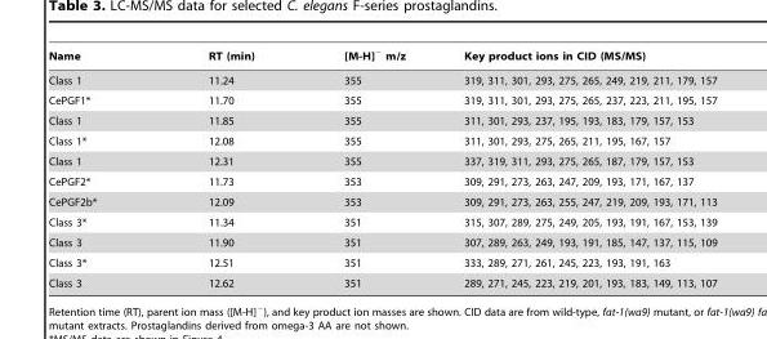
<table><thead><tr><td>Name</td><td>RT (min)</td><td>[M-H]<sup>−</sup> m/z</td><td>Key product ions in CID (MS/MS)</td></tr></thead><tbody><tr><td>Class 1</td><td>11.24</td><td>355</td><td>319, 311, 301, 293, 275, 265, 249, 219, 211, 179, 157</td></tr><tr><td>CePGF1*</td><td>11.70</td><td>355</td><td>319, 311, 301, 293, 275, 265, 237, 223, 211, 195, 157</td></tr><tr><td>Class 1</td><td>11.85</td><td>355</td><td>311, 301, 293, 237, 195, 193, 183, 179, 157, 153</td></tr><tr><td>Class 1*</td><td>12.08</td><td>355</td><td>311, 301, 293, 275, 265, 211, 195, 167, 157</td></tr><tr><td>Class 1</td><td>12.31</td><td>355</td><td>337, 319, 311, 293, 275, 265, 187, 179, 157, 153</td></tr><tr><td>CePGF2*</td><td>11.73</td><td>353</td><td>309, 291, 273, 263, 247, 209, 193, 171, 167, 137</td></tr><tr><td>CePGF2b*</td><td>12.09</td><td>353</td><td>309, 291, 273, 263, 255, 247, 219, 209, 193, 171, 113</td></tr><tr><td>Class 3*</td><td>11.34</td><td>351</td><td>315, 307, 289, 275, 249, 205, 193, 191, 167, 153, 139</td></tr><tr><td>Class 3</td><td>11.90</td><td>351</td><td>307, 289, 263, 249, 193, 191, 185, 147, 137, 115, 109</td></tr><tr><td>Class 3*</td><td>12.51</td><td>351</td><td>333, 289, 271, 261, 245, 223, 193, 191, 163</td></tr><tr><td>Class 3</td><td>12.62</td><td>351</td><td>289, 271, 245, 223, 219, 201, 193, 183, 149, 113, 107</td></tr></tbody></table>